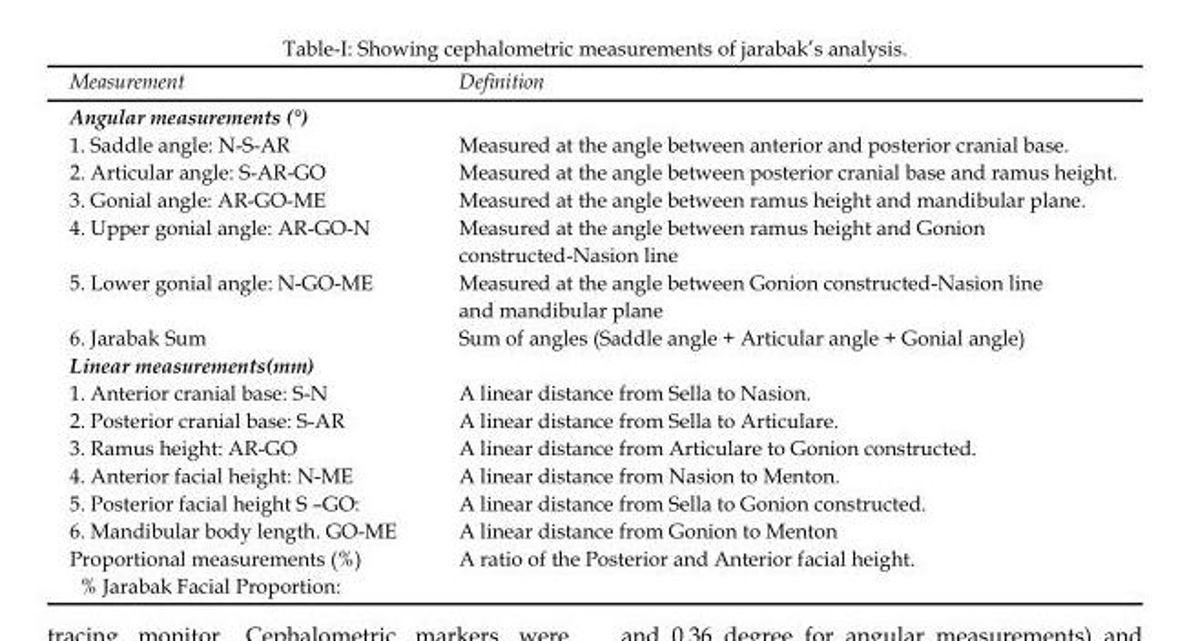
<table><thead><tr><td>Measurement</td><td>Definition</td></tr></thead><tbody><tr><td colspan="2">Angular measurements (°)</td></tr><tr><td>1. Saddle angle: N-S-AR</td><td>Measured at the angle between anterior and posterior cranial base.</td></tr><tr><td>2. Articular angle: S-AR-GO</td><td>Measured at the angle between posterior cranial base and ramus height.</td></tr><tr><td>3. Gonial angle: AR-GO-ME</td><td>Measured at the angle between ramus height and mandibular plane.</td></tr><tr><td>4. Upper gonial angle: AR-GO-N</td><td>Measured at the angle between ramus height and Gonion constructed-Nasion line</td></tr><tr><td>5. Lower gonial angle: N-GO-ME</td><td>Measured at the angle between Gonion constructed-Nasion line and mandibular plane</td></tr><tr><td>6. Jarabak Sum</td><td>Sum of angles (Saddle angle + Articular angle + Gonial angle)</td></tr><tr><td colspan="2">Linear measurements(mm)</td></tr><tr><td>1. Anterior cranial base: S-N</td><td>A linear distance from Sella to Nasion.</td></tr><tr><td>2. Posterior cranial base: S-AR</td><td>A linear distance from Sella to Articulare.</td></tr><tr><td>3. Ramus height: AR-GO</td><td>A linear distance from Articulare to Gonion constructed.</td></tr><tr><td>4. Anterior facial height: N-ME</td><td>A linear distance from Nasion to Menton.</td></tr><tr><td>5. Posterior facial height S –GO:</td><td>A linear distance from Sella to Gonion constructed.</td></tr><tr><td>6. Mandibular body length. GO-ME</td><td>A linear distance from Gonion to Menton</td></tr><tr><td>Proportional measurements (%)</td><td>A ratio of the Posterior and Anterior facial height.</td></tr></tbody></table>